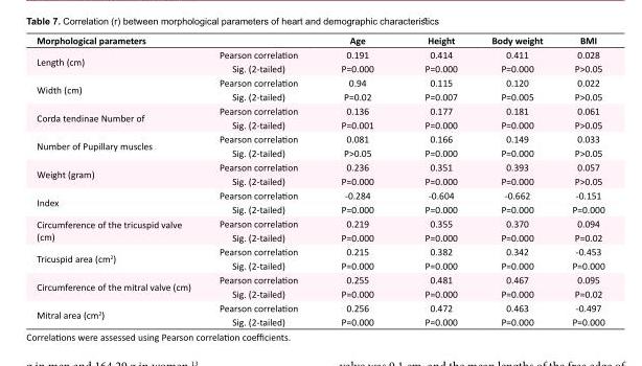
<table><tbody><tr><td>Morphological parameters</td><td></td><td>Age</td><td>Height</td><td>Body weight</td><td>BMI</td></tr><tr><td rowspan="2">Length (cm)</td><td>Pearson correlation</td><td>0.191</td><td>0.414</td><td>0.411</td><td>0.028</td></tr><tr><td>Sig. (2-tailed)</td><td>P=0.000</td><td>P=0.000</td><td>P=0.000</td><td>P&gt;0.05</td></tr><tr><td rowspan="2">Width (cm)</td><td>Pearson correlation</td><td>0.94</td><td>0.115</td><td>0.120</td><td>0.022</td></tr><tr><td>Sig. (2-tailed)</td><td>P=0.02</td><td>P=0.007</td><td>P=0.005</td><td>P&gt;0.05</td></tr><tr><td rowspan="2">Corda tendinae Number of</td><td>Pearson correlation</td><td>0.136</td><td>0.177</td><td>0.181</td><td>0.061</td></tr><tr><td>Sig. (2-tailed)</td><td>P=0.001</td><td>P=0.000</td><td>P=0.000</td><td>P&gt;0.05</td></tr><tr><td rowspan="2">Number of Pupillary muscles</td><td>Pearson correlation</td><td>0.081</td><td>0.166</td><td>0.149</td><td>0.033</td></tr><tr><td>Sig. (2-tailed)</td><td>P&gt;0.05</td><td>P=0.000</td><td>P=0.000</td><td>P&gt;0.05</td></tr><tr><td rowspan="2">Weight (gram)</td><td>Pearson correlation</td><td>0.236</td><td>0.351</td><td>0.393</td><td>0.057</td></tr><tr><td>Sig. (2-tailed)</td><td>P=0.000</td><td>P=0.000</td><td>P=0.000</td><td>P&gt;0.05</td></tr><tr><td rowspan="2">Index</td><td>Pearson correlation</td><td>-0.284</td><td>-0.604</td><td>-0.662</td><td>-0.151</td></tr><tr><td>Sig. (2-tailed)</td><td>P=0.000</td><td>P=0.000</td><td>P=0.000</td><td>P=0.000</td></tr><tr><td rowspan="2">Circumference of the tricuspid valve (cm)</td><td>Pearson correlation</td><td>0.219</td><td>0.355</td><td>0.370</td><td>0.094</td></tr><tr><td>Sig. (2-tailed)</td><td>P=0.000</td><td>P=0.000</td><td>P=0.000</td><td>P=0.02</td></tr><tr><td rowspan="2">Tricuspid area (cm<sup>2</sup>)</td><td>Pearson correlation</td><td>0.215</td><td>0.382</td><td>0.342</td><td>-0.453</td></tr><tr><td>Sig. (2-tailed)</td><td>P=0.000</td><td>P=0.000</td><td>P=0.000</td><td>P=0.000</td></tr><tr><td rowspan="2">Circumference of the mitral valve (cm)</td><td>Pearson correlation</td><td>0.255</td><td>0.481</td><td>0.467</td><td>0.095</td></tr><tr><td>Sig. (2-tailed)</td><td>P=0.000</td><td>P=0.000</td><td>P=0.000</td><td>P=0.02</td></tr><tr><td rowspan="2">Mitral area (cm<sup>2</sup>)</td><td>Pearson correlation</td><td>0.256</td><td>0.472</td><td>0.463</td><td>-0.497</td></tr><tr><td>Sig. (2-tailed)</td><td>P=0.000</td><td>P=0.000</td><td>P=0.000</td><td>P=0.000</td></tr></tbody></table>